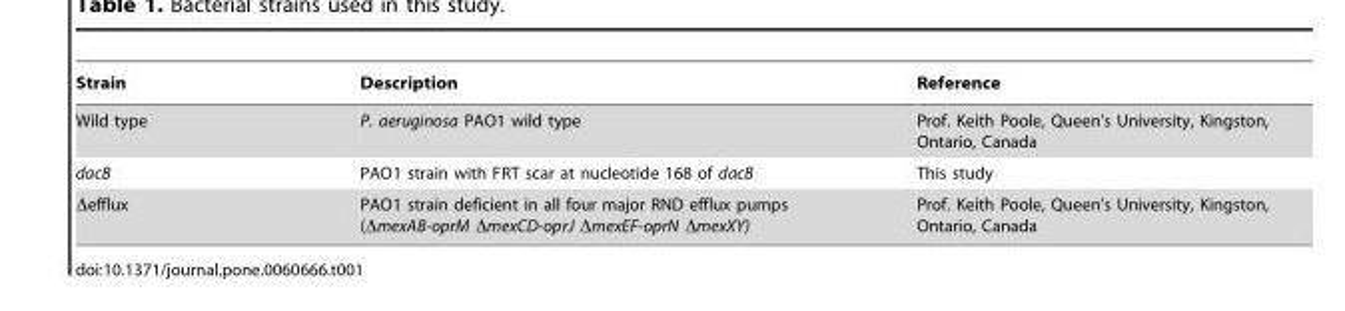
<table><thead><tr><td>Strain</td><td>Description</td><td>Reference</td></tr></thead><tbody><tr><td>Wild type</td><td>P. aeruginosa PAO1 wild type</td><td>Prof. Keith Poole, Queen’s University, Kingston, Ontario, Canada</td></tr><tr><td>dacB</td><td>PAO1 strain with FRT scar at nucleotide 168 of dacB</td><td>This study</td></tr><tr><td>Δefflux</td><td>PAO1 strain deficient in all four major RND efflux pumps (ΔmexAB-oprM ΔmexCD-oprJ ΔmexEF-oprN ΔmexXY)</td><td>Prof. Keith Poole, Queen’s University, Kingston, Ontario, Canada</td></tr></tbody></table>